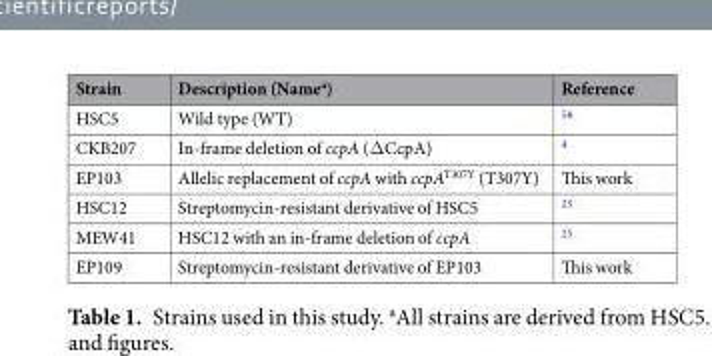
<table><thead><tr><td>Strain</td><td>Description (Name<sup>a</sup>)</td><td>Reference</td></tr></thead><tbody><tr><td>HSC5</td><td>Wild type (WT)</td><td><sup>58</sup></td></tr><tr><td>CKB207</td><td>In-frame deletion of ccpA (ΔCcpA)</td><td><sup>4</sup></td></tr><tr><td>EP103</td><td>Allelic replacement of ccpA with ccpA<sup>T307Y</sup> (T307Y)</td><td>This work</td></tr><tr><td>HSC12</td><td>Streptomycin-resistant derivative of HSC5</td><td><sup>25</sup></td></tr><tr><td>MEW41</td><td>HSC12 with an in-frame deletion of ccpA</td><td><sup>25</sup></td></tr><tr><td>EP109</td><td>Streptomycin-resistant derivative of EP103</td><td>This work</td></tr></tbody></table>